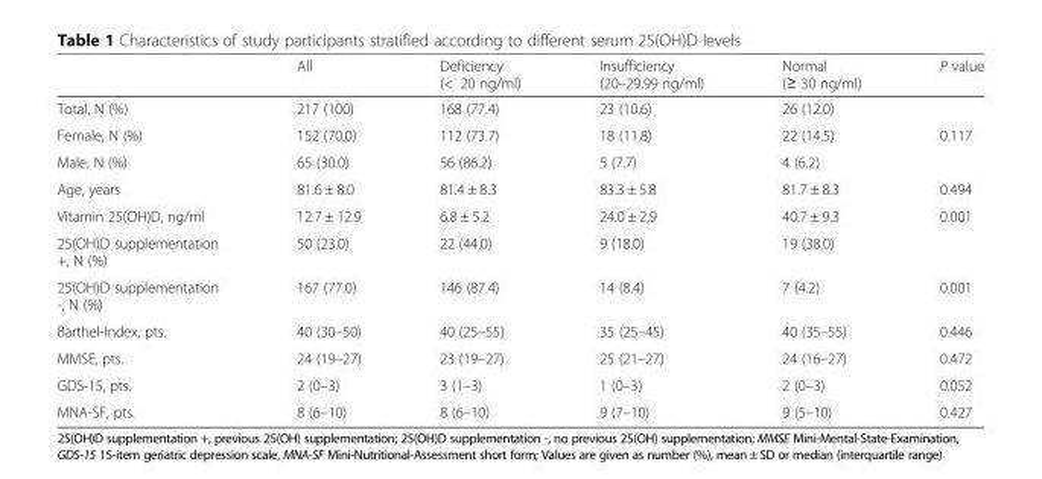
<table><thead><tr><td></td><td>All</td><td>Deficiency (&lt; 20 ng/ml)</td><td>Insufficiency (20–29.99 ng/ml)</td><td>Normal (≥ 30 ng/ml)</td><td>P value</td></tr></thead><tbody><tr><td>Total, N (%)</td><td>217 (100)</td><td>168 (77.4)</td><td>23 (10.6)</td><td>26 (12.0)</td><td></td></tr><tr><td>Female, N (%)</td><td>152 (70.0)</td><td>112 (73.7)</td><td>18 (11.8)</td><td>22 (14.5)</td><td rowspan="2">0.117</td></tr><tr><td>Male, N (%)</td><td>65 (30.0)</td><td>56 (86.2)</td><td>5 (7.7)</td><td>4 (6.2)</td></tr><tr><td>Age, years</td><td>81.6 ± 8.0</td><td>81.4 ± 8.3</td><td>83.3 ± 5.8</td><td>81.7 ± 8.3</td><td>0.494</td></tr><tr><td>Vitamin 25(OH)D, ng/ml</td><td>12.7 ± 12.9</td><td>6.8 ± 5.2</td><td>24.0 ± 2.9</td><td>40.7 ± 9.3</td><td>0.001</td></tr><tr><td>25(OH)D supplementation +, N (%)</td><td>50 (23.0)</td><td>22 (44.0)</td><td>9 (18.0)</td><td>19 (38.0)</td><td></td></tr><tr><td>25(OH)D supplementation -, N (%)</td><td>167 (77.0)</td><td>146 (87.4)</td><td>14 (8.4)</td><td>7 (4.2)</td><td>0.001</td></tr><tr><td>Barthel-Index, pts.</td><td>40 (30–50)</td><td>40 (25–55)</td><td>35 (25–45)</td><td>40 (35–55)</td><td>0.446</td></tr><tr><td>MMSE, pts.</td><td>24 (19–27)</td><td>23 (19–27)</td><td>25 (21–27)</td><td>24 (16–27)</td><td>0.472</td></tr><tr><td>GDS-15, pts.</td><td>2 (0–3)</td><td>3 (1–3)</td><td>1 (0–3)</td><td>2 (0–3)</td><td>0.052</td></tr><tr><td>MNA-SF, pts.</td><td>8 (6–10)</td><td>8 (6–10)</td><td>9 (7–10)</td><td>9 (5–10)</td><td>0.427</td></tr></tbody></table>